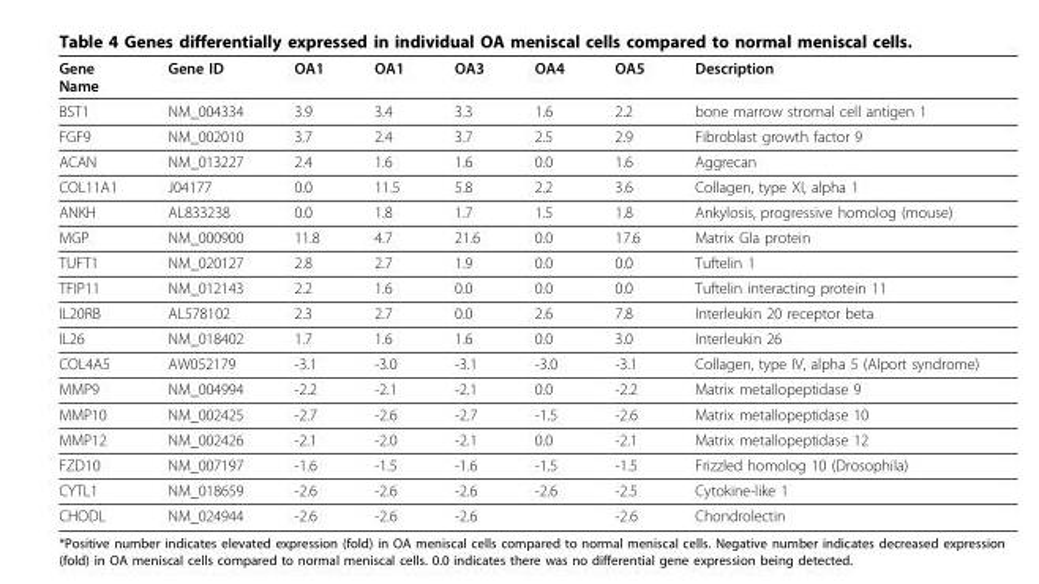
<table><thead><tr><td>Gene Name</td><td>Gene ID</td><td>OA1</td><td>OA1</td><td>OA3</td><td>OA4</td><td>OA5</td><td>Description</td></tr></thead><tbody><tr><td>BST1</td><td>NM_004334</td><td>3.9</td><td>3.4</td><td>3.3</td><td>1.6</td><td>2.2</td><td>bone marrow stromal cell antigen 1</td></tr><tr><td>FGF9</td><td>NM_002010</td><td>3.7</td><td>2.4</td><td>3.7</td><td>2.5</td><td>2.9</td><td>Fibroblast growth factor 9</td></tr><tr><td>ACAN</td><td>NM_013227</td><td>2.4</td><td>1.6</td><td>1.6</td><td>0.0</td><td>1.6</td><td>Aggrecan</td></tr><tr><td>COL11A1</td><td>J04177</td><td>0.0</td><td>11.5</td><td>5.8</td><td>2.2</td><td>3.6</td><td>Collagen, type XI, alpha 1</td></tr><tr><td>ANKH</td><td>AL833238</td><td>0.0</td><td>1.8</td><td>1.7</td><td>1.5</td><td>1.8</td><td>Ankylosis, progressive homolog (mouse)</td></tr><tr><td>MGP</td><td>NM_000900</td><td>11.8</td><td>4.7</td><td>21.6</td><td>0.0</td><td>17.6</td><td>Matrix Gla protein</td></tr><tr><td>TUFT1</td><td>NM_020127</td><td>2.8</td><td>2.7</td><td>1.9</td><td>0.0</td><td>0.0</td><td>Tuftelin 1</td></tr><tr><td>TFIP11</td><td>NM_012143</td><td>2.2</td><td>1.6</td><td>0.0</td><td>0.0</td><td>0.0</td><td>Tuftelin interacting protein 11</td></tr><tr><td>IL20RB</td><td>AL578102</td><td>2.3</td><td>2.7</td><td>0.0</td><td>2.6</td><td>7.8</td><td>Interleukin 20 receptor beta</td></tr><tr><td>IL26</td><td>NM_018402</td><td>1.7</td><td>1.6</td><td>1.6</td><td>0.0</td><td>3.0</td><td>Interleukin 26</td></tr><tr><td>COL4A5</td><td>AW052179</td><td>-3.1</td><td>-3.0</td><td>-3.1</td><td>-3.0</td><td>-3.1</td><td>Collagen, type IV, alpha 5 (Alport syndrome)</td></tr><tr><td>MMP9</td><td>NM_004994</td><td>-2.2</td><td>-2.1</td><td>-2.1</td><td>0.0</td><td>-2.2</td><td>Matrix metallopeptidase 9</td></tr><tr><td>MMP10</td><td>NM_002425</td><td>-2.7</td><td>-2.6</td><td>-2.7</td><td>-1.5</td><td>-2.6</td><td>Matrix metallopeptidase 10</td></tr><tr><td>MMP12</td><td>NM_002426</td><td>-2.1</td><td>-2.0</td><td>-2.1</td><td>0.0</td><td>-2.1</td><td>Matrix metallopeptidase 12</td></tr><tr><td>FZD10</td><td>NM_007197</td><td>-1.6</td><td>-1.5</td><td>-1.6</td><td>-1.5</td><td>-1.5</td><td>Frizzled homolog 10 (Drosophila)</td></tr><tr><td>CYTL1</td><td>NM_018659</td><td>-2.6</td><td>-2.6</td><td>-2.6</td><td>-2.6</td><td>-2.5</td><td>Cytokine-like 1</td></tr><tr><td>CHODL</td><td>NM_024944</td><td>-2.6</td><td>-2.6</td><td>-2.6</td><td></td><td>-2.6</td><td>Chondrolectin</td></tr></tbody></table>